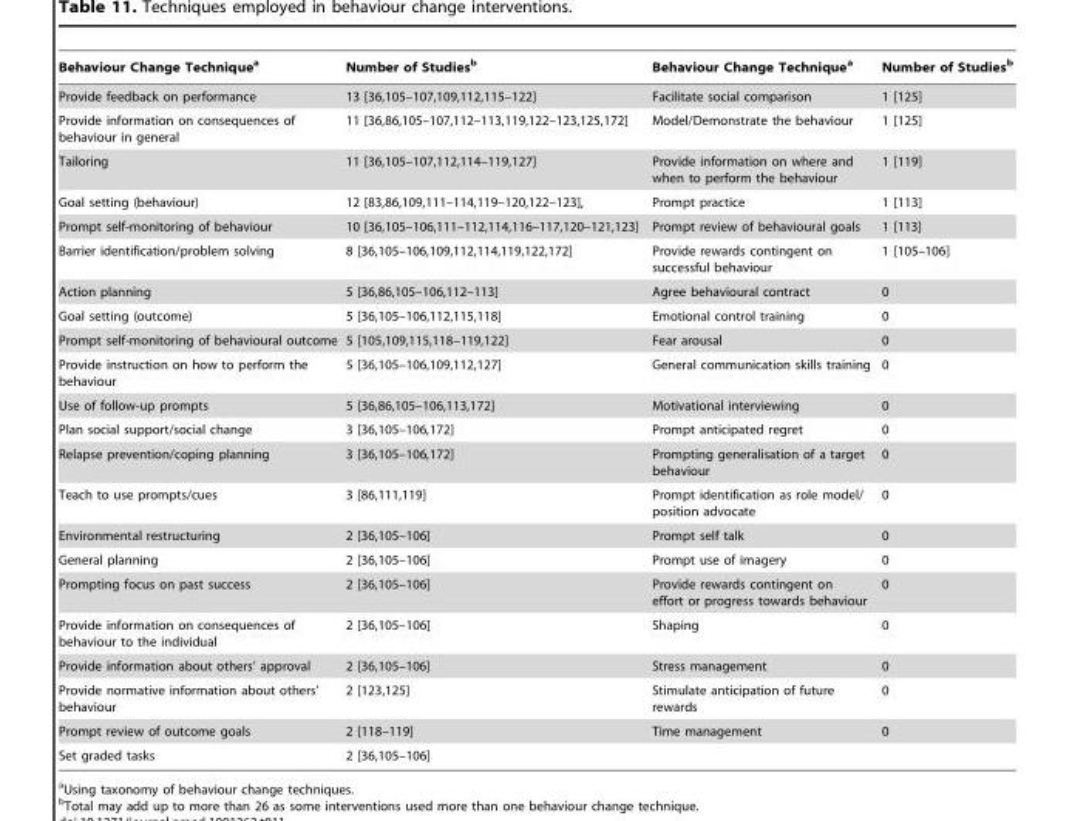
<table><thead><tr><td>Behaviour Change Technique<sup>a</sup></td><td>Number of Studies<sup>b</sup></td><td>Behaviour Change Technique<sup>a</sup></td><td>Number of Studies<sup>b</sup></td></tr></thead><tbody><tr><td>Provide feedback on performance</td><td>13 [36,105–107,109,112,115–122]</td><td>Facilitate social comparison</td><td>1 [125]</td></tr><tr><td>Provide information on consequences of behaviour in general</td><td>11 [36,86,105–107,112–113,119,122–123,125,172]</td><td>Model/Demonstrate the behaviour</td><td>1 [125]</td></tr><tr><td>Tailoring</td><td>11 [36,105–107,112,114–119,127]</td><td>Provide information on where and when to perform the behaviour</td><td>1 [119]</td></tr><tr><td>Goal setting (behaviour)</td><td>12 [83,86,109,111–114,119–120,122–123],</td><td>Prompt practice</td><td>1 [113]</td></tr><tr><td>Prompt self-monitoring of behaviour</td><td>10 [36,105–106,111–112,114,116–117,120–121,123]</td><td>Prompt review of behavioural goals</td><td>1 [113]</td></tr><tr><td>Barrier identification/problem solving</td><td>8 [36,105–106,109,112,114,119,122,172]</td><td>Provide rewards contingent on successful behaviour</td><td>1 [105–106]</td></tr><tr><td>Action planning</td><td>5 [36,86,105–106,112–113]</td><td>Agree behavioural contract</td><td>0</td></tr><tr><td>Goal setting (outcome)</td><td>5 [36,105–106,112,115,118]</td><td>Emotional control training</td><td>0</td></tr><tr><td>Prompt self-monitoring of behavioural outcome</td><td>5 [105,109,115,118–119,122]</td><td>Fear arousal</td><td>0</td></tr><tr><td>Provide instruction on how to perform the behaviour</td><td>5 [36,105–106,109,112,127]</td><td>General communication skills training</td><td>0</td></tr><tr><td>Use of follow-up prompts</td><td>5 [36,86,105–106,113,172]</td><td>Motivational interviewing</td><td>0</td></tr><tr><td>Plan social support/social change</td><td>3 [36,105–106,172]</td><td>Prompt anticipated regret</td><td>0</td></tr><tr><td>Relapse prevention/coping planning</td><td>3 [36,105–106,172]</td><td>Prompting generalisation of a target behaviour</td><td>0</td></tr><tr><td>Teach to use prompts/cues</td><td>3 [86,111,119]</td><td>Prompt identification as role model/ position advocate</td><td>0</td></tr><tr><td>Environmental restructuring</td><td>2 [36,105–106]</td><td>Prompt self talk</td><td>0</td></tr><tr><td>General planning</td><td>2 [36,105–106]</td><td>Prompt use of imagery</td><td>0</td></tr><tr><td>Prompting focus on past success</td><td>2 [36,105–106]</td><td>Provide rewards contingent on effort or progress towards behaviour</td><td>0</td></tr><tr><td>Provide information on consequences of behaviour to the individual</td><td>2 [36,105–106]</td><td>Shaping</td><td>0</td></tr><tr><td>Provide information about others’ approval</td><td>2 [36,105–106]</td><td>Stress management</td><td>0</td></tr><tr><td>Provide normative information about others’ behaviour</td><td>2 [123,125]</td><td>Stimulate anticipation of future rewards</td><td>0</td></tr><tr><td>Prompt review of outcome goals</td><td>2 [118–119]</td><td>Time management</td><td>0</td></tr><tr><td>Set graded tasks</td><td>2 [36,105–106]</td><td></td><td></td></tr></tbody></table>